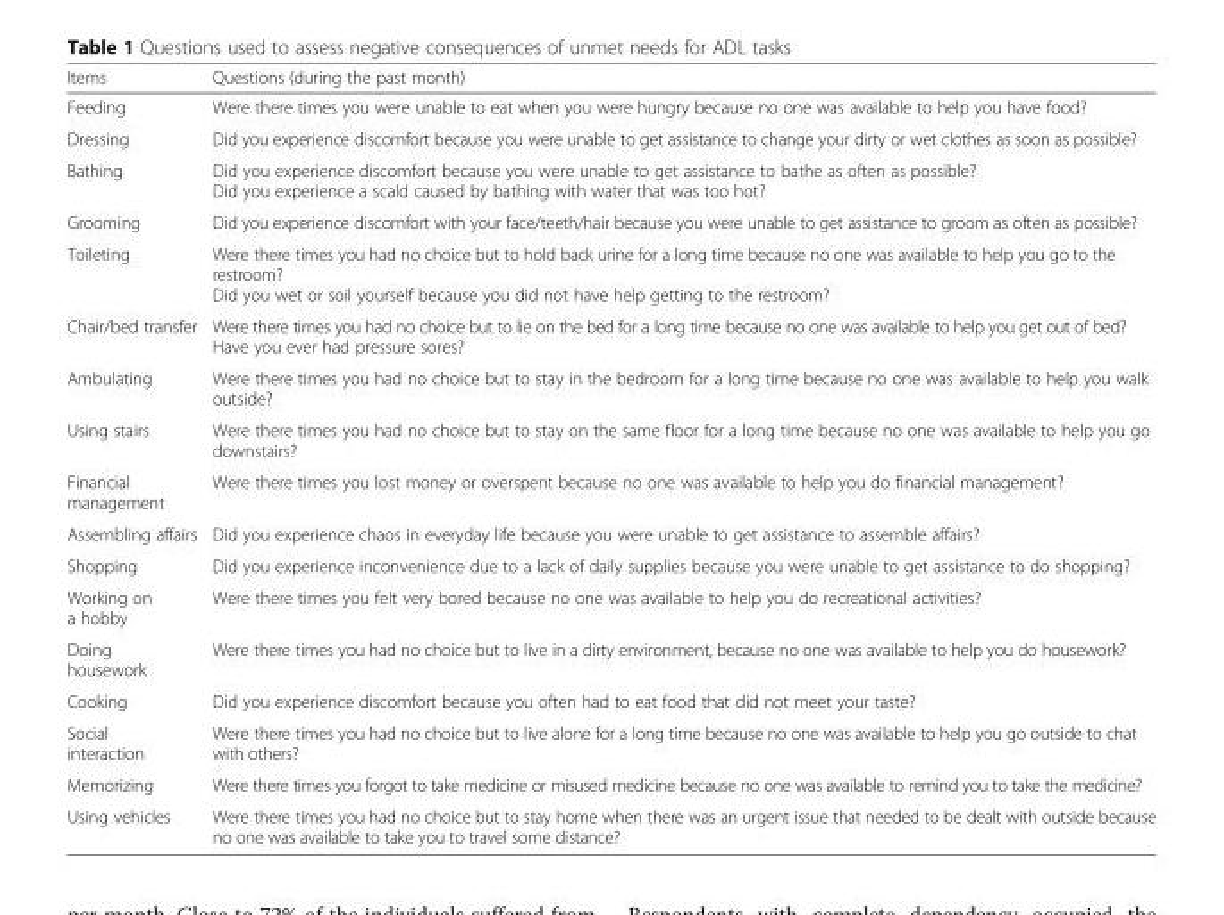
<table><thead><tr><td>Items</td><td>Questions (during the past month)</td></tr></thead><tbody><tr><td>Feeding</td><td>Were there times you were unable to eat when you were hungry because no one was available to help you have food?</td></tr><tr><td>Dressing</td><td>Did you experience discomfort because you were unable to get assistance to change your dirty or wet clothes as soon as possible?</td></tr><tr><td>Bathing</td><td>Did you experience discomfort because you were unable to get assistance to bathe as often as possible? Did you experience a scald caused by bathing with water that was too hot?</td></tr><tr><td>Grooming</td><td>Did you experience discomfort with your face/teeth/hair because you were unable to get assistance to groom as often as possible?</td></tr><tr><td>Toileting</td><td>Were there times you had no choice but to hold back urine for a long time because no one was available to help you go to the restroom? Did you wet or soil yourself because you did not have help getting to the restroom?</td></tr><tr><td>Chair/bed transfer</td><td>Were there times you had no choice but to lie on the bed for a long time because no one was available to help you get out of bed? Have you ever had pressure sores?</td></tr><tr><td>Ambulating</td><td>Were there times you had no choice but to stay in the bedroom for a long time because no one was available to help you walk outside?</td></tr><tr><td>Using stairs</td><td>Were there times you had no choice but to stay on the same floor for a long time because no one was available to help you go downstairs?</td></tr><tr><td>Financial management</td><td>Were there times you lost money or overspent because no one was available to help you do financial management?</td></tr><tr><td>Assembling affairs</td><td>Did you experience chaos in everyday life because you were unable to get assistance to assemble affairs?</td></tr><tr><td>Shopping</td><td>Did you experience inconvenience due to a lack of daily supplies because you were unable to get assistance to do shopping?</td></tr><tr><td>Working on a hobby</td><td>Were there times you felt very bored because no one was available to help you do recreational activities?</td></tr><tr><td>Doing housework</td><td>Were there times you had no choice but to live in a dirty environment, because no one was available to help you do housework?</td></tr><tr><td>Cooking</td><td>Did you experience discomfort because you often had to eat food that did not meet your taste?</td></tr><tr><td>Social interaction</td><td>Were there times you had no choice but to live alone for a long time because no one was available to help you go outside to chat with others?</td></tr><tr><td>Memorizing</td><td>Were there times you forgot to take medicine or misused medicine because no one was available to remind you to take the medicine?</td></tr><tr><td>Using vehicles</td><td>Were there times you had no choice but to stay home when there was an urgent issue that needed to be dealt with outside because no one was available to take you to travel some distance?</td></tr></tbody></table>